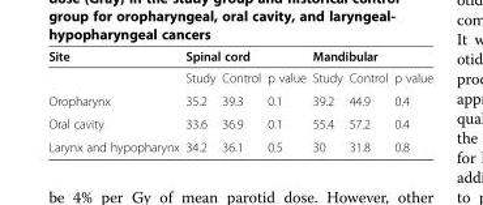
<table><thead><tr><td rowspan="2">Site</td><td colspan="3">Spinal cord</td><td colspan="3">Mandibular</td></tr><tr><td>Study</td><td>Control</td><td>p value</td><td>Study</td><td>Control</td><td>p value</td></tr></thead><tbody><tr><td>Oropharynx</td><td>35.2</td><td>39.3</td><td>0.1</td><td>39.2</td><td>44.9</td><td>0.4</td></tr><tr><td>Oral cavity</td><td>33.6</td><td>36.9</td><td>0.1</td><td>55.4</td><td>57.2</td><td>0.4</td></tr><tr><td>Larynx and hypopharynx</td><td>34.2</td><td>36.1</td><td>0.5</td><td>30</td><td>31.8</td><td>0.8</td></tr></tbody></table>